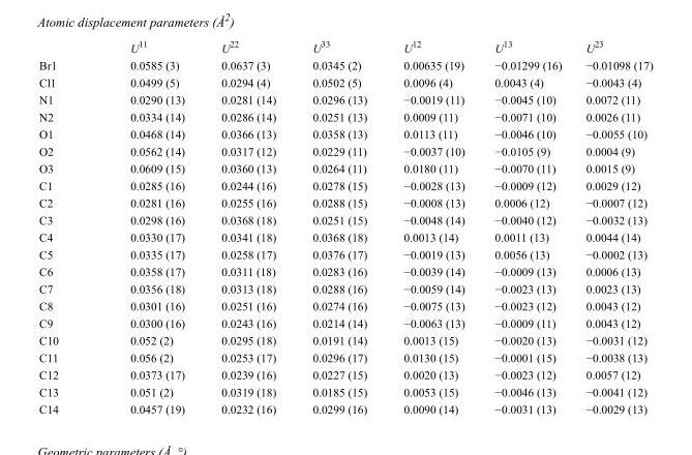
<table><thead><tr><td></td><td>U<sup>11</sup></td><td>U<sup>22</sup></td><td>U<sup>33</sup></td><td>U<sup>12</sup></td><td>U<sup>13</sup></td><td>U<sup>23</sup></td></tr></thead><tbody><tr><td>Br1</td><td>0.0585 (3)</td><td>0.0637 (3)</td><td>0.0345 (2)</td><td>0.00635 (19)</td><td>−0.01299 (16)</td><td>−0.01098 (17)</td></tr><tr><td>Cl1</td><td>0.0499 (5)</td><td>0.0294 (4)</td><td>0.0502 (5)</td><td>0.0096 (4)</td><td>0.0043 (4)</td><td>−0.0043 (4)</td></tr><tr><td>N1</td><td>0.0290 (13)</td><td>0.0281 (14)</td><td>0.0296 (13)</td><td>−0.0019 (11)</td><td>−0.0045 (10)</td><td>0.0072 (11)</td></tr><tr><td>N2</td><td>0.0334 (14)</td><td>0.0286 (14)</td><td>0.0251 (13)</td><td>0.0009 (11)</td><td>−0.0071 (10)</td><td>0.0026 (11)</td></tr><tr><td>O1</td><td>0.0468 (14)</td><td>0.0366 (13)</td><td>0.0358 (13)</td><td>0.0113 (11)</td><td>−0.0046 (10)</td><td>−0.0055 (10)</td></tr><tr><td>O2</td><td>0.0562 (14)</td><td>0.0317 (12)</td><td>0.0229 (11)</td><td>−0.0037 (10)</td><td>−0.0105 (9)</td><td>0.0004 (9)</td></tr><tr><td>O3</td><td>0.0609 (15)</td><td>0.0360 (13)</td><td>0.0264 (11)</td><td>0.0180 (11)</td><td>−0.0070 (11)</td><td>0.0015 (9)</td></tr><tr><td>C1</td><td>0.0285 (16)</td><td>0.0244 (16)</td><td>0.0278 (15)</td><td>−0.0028 (13)</td><td>−0.0009 (12)</td><td>0.0029 (12)</td></tr><tr><td>C2</td><td>0.0281 (16)</td><td>0.0255 (16)</td><td>0.0288 (15)</td><td>−0.0008 (13)</td><td>0.0006 (12)</td><td>−0.0007 (12)</td></tr><tr><td>C3</td><td>0.0298 (16)</td><td>0.0368 (18)</td><td>0.0251 (15)</td><td>−0.0048 (14)</td><td>−0.0040 (12)</td><td>−0.0032 (13)</td></tr><tr><td>C4</td><td>0.0330 (17)</td><td>0.0341 (18)</td><td>0.0368 (18)</td><td>0.0013 (14)</td><td>0.0011 (13)</td><td>0.0044 (14)</td></tr><tr><td>C5</td><td>0.0335 (17)</td><td>0.0258 (17)</td><td>0.0376 (17)</td><td>−0.0019 (13)</td><td>0.0056 (13)</td><td>−0.0002 (13)</td></tr><tr><td>C6</td><td>0.0358 (17)</td><td>0.0311 (18)</td><td>0.0283 (16)</td><td>−0.0039 (14)</td><td>−0.0009 (13)</td><td>0.0006 (13)</td></tr><tr><td>C7</td><td>0.0356 (18)</td><td>0.0313 (18)</td><td>0.0288 (16)</td><td>−0.0059 (14)</td><td>−0.0023 (13)</td><td>0.0023 (13)</td></tr><tr><td>C8</td><td>0.0301 (16)</td><td>0.0251 (16)</td><td>0.0274 (16)</td><td>−0.0075 (13)</td><td>−0.0023 (12)</td><td>0.0043 (12)</td></tr><tr><td>C9</td><td>0.0300 (16)</td><td>0.0243 (16)</td><td>0.0214 (14)</td><td>−0.0063 (13)</td><td>−0.0009 (11)</td><td>0.0043 (12)</td></tr><tr><td>C10</td><td>0.052 (2)</td><td>0.0295 (18)</td><td>0.0191 (14)</td><td>0.0013 (15)</td><td>−0.0020 (13)</td><td>−0.0031 (12)</td></tr><tr><td>C11</td><td>0.056 (2)</td><td>0.0253 (17)</td><td>0.0296 (17)</td><td>0.0130 (15)</td><td>−0.0001 (15)</td><td>−0.0038 (13)</td></tr><tr><td>C12</td><td>0.0373 (17)</td><td>0.0239 (16)</td><td>0.0227 (15)</td><td>0.0020 (13)</td><td>−0.0023 (12)</td><td>0.0057 (12)</td></tr><tr><td>C13</td><td>0.051 (2)</td><td>0.0319 (18)</td><td>0.0185 (15)</td><td>0.0053 (15)</td><td>−0.0046 (13)</td><td>−0.0041 (12)</td></tr><tr><td>C14</td><td>0.0457 (19)</td><td>0.0232 (16)</td><td>0.0299 (16)</td><td>0.0090 (14)</td><td>−0.0031 (13)</td><td>−0.0029 (13)</td></tr></tbody></table>